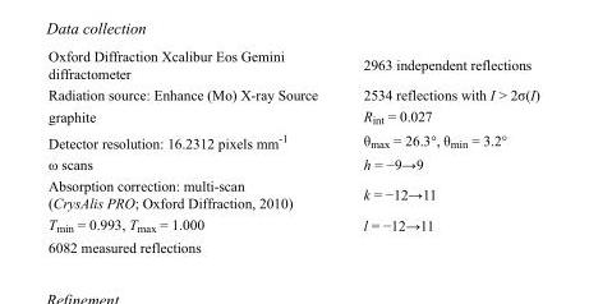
<table><tbody><tr><td>Oxford Diffraction Xcalibur Eos Gemini diffractometer</td><td>2963 independent reflections</td></tr><tr><td>Radiation source: Enhance (Mo) X-ray Source</td><td>2534 reflections with I &gt; 2σ(I)</td></tr><tr><td>graphite</td><td>R<sub>int</sub> = 0.027</td></tr><tr><td>Detector resolution: 16.2312 pixels mm<sup>-1</sup></td><td>θ<sub>max</sub> = 26.3°, θ<sub>min</sub> = 3.2°</td></tr><tr><td>ω scans</td><td>h = −9→9</td></tr><tr><td>Absorption correction: multi-scan (CrysAlis PRO; Oxford Diffraction, 2010)</td><td>k = −12→11</td></tr><tr><td>T<sub>min</sub> = 0.993, T<sub>max</sub> = 1.000</td><td>l = −12→11</td></tr><tr><td>6082 measured reflections</td><td></td></tr></tbody></table>